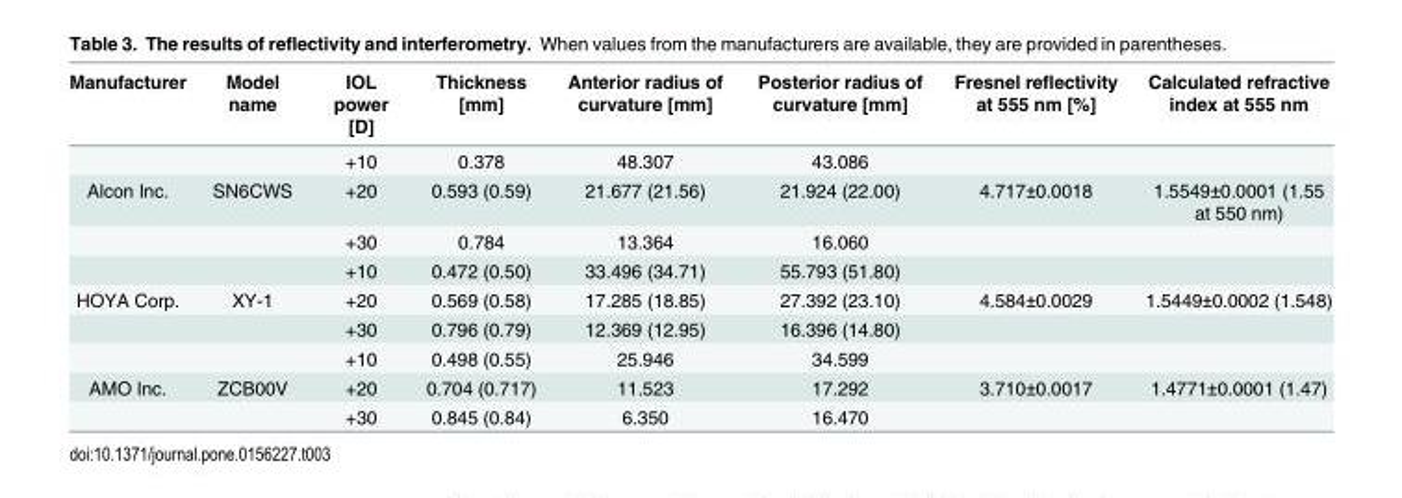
<table><thead><tr><td>Manufacturer</td><td>Model name</td><td>IOL power [D]</td><td>Thickness [mm]</td><td>Anterior radius of curvature [mm]</td><td>Posterior radius of curvature [mm]</td><td>Fresnel reflectivity at 555 nm [%]</td><td>Calculated refractive index at 555 nm</td></tr></thead><tbody><tr><td></td><td></td><td>+10</td><td>0.378</td><td>48.307</td><td>43.086</td><td></td><td></td></tr><tr><td rowspan="3">Alcon Inc.</td><td>SN6CWS</td><td>+20</td><td>0.593 (0.59)</td><td>21.677 (21.56)</td><td>21.924 (22.00)</td><td>4.717±0.0018</td><td>1.5549±0.0001 (1.55 at 550 nm)</td></tr><tr><td></td><td>+30</td><td>0.784</td><td>13.364</td><td>16.060</td><td></td><td></td></tr><tr><td></td><td>+10</td><td>0.472 (0.50)</td><td>33.496 (34.71)</td><td>55.793 (51.80)</td><td></td><td></td></tr><tr><td rowspan="3">HOYA Corp.</td><td>XY-1</td><td>+20</td><td>0.569 (0.58)</td><td>17.285 (18.85)</td><td>27.392 (23.10)</td><td>4.584±0.0029</td><td>1.5449±0.0002 (1.548)</td></tr><tr><td></td><td>+30</td><td>0.796 (0.79)</td><td>12.369 (12.95)</td><td>16.396 (14.80)</td><td></td><td></td></tr><tr><td></td><td>+10</td><td>0.498 (0.55)</td><td>25.946</td><td>34.599</td><td></td><td></td></tr><tr><td rowspan="2">AMO Inc.</td><td>ZCB00V</td><td>+20</td><td>0.704 (0.717)</td><td>11.523</td><td>17.292</td><td>3.710±0.0017</td><td>1.4771±0.0001 (1.47)</td></tr><tr><td></td><td>+30</td><td>0.845 (0.84)</td><td>6.350</td><td>16.470</td><td></td><td></td></tr></tbody></table>